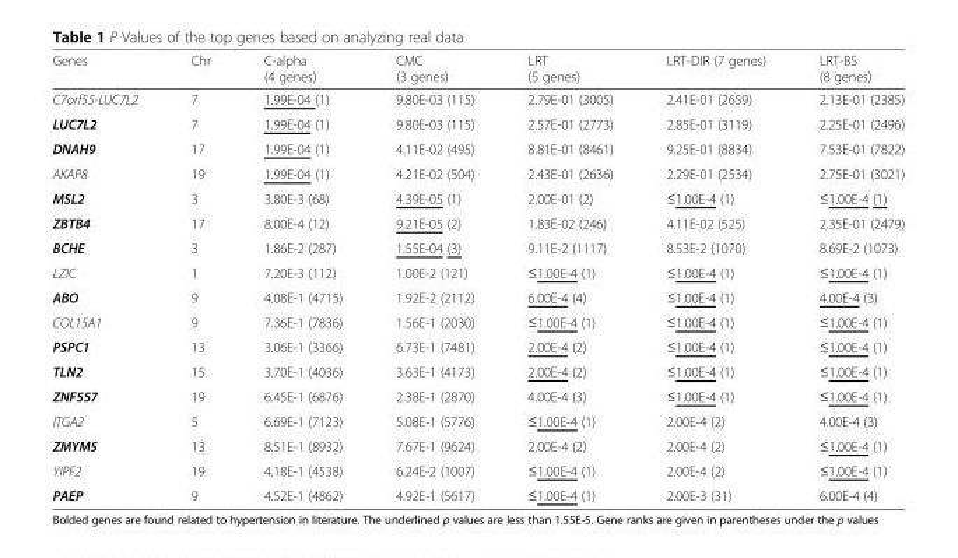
<table><thead><tr><td>Genes</td><td>Chr</td><td>C-alpha (4 genes)</td><td>CMC (3 genes)</td><td>LRT (5 genes)</td><td>LRT-DIR (7 genes)</td><td>LRT-BS (8 genes)</td></tr></thead><tbody><tr><td>C7orf55-LUC7L2</td><td>7</td><td>1.99E-04 (1)</td><td>9.80E-03 (115)</td><td>2.79E-01 (3005)</td><td>2.41E-01 (2659)</td><td>2.13E-01 (2385)</td></tr><tr><td>LUC7L2</td><td>7</td><td>1.99E-04 (1)</td><td>9.80E-03 (115)</td><td>2.57E-01 (2773)</td><td>2.85E-01 (3119)</td><td>2.25E-01 (2496)</td></tr><tr><td>DNAH9</td><td>17</td><td>1.99E-04 (1)</td><td>4.11E-02 (495)</td><td>8.81E-01 (8461)</td><td>9.25E-01 (8834)</td><td>7.53E-01 (7822)</td></tr><tr><td>AKAP8</td><td>19</td><td>1.99E-04 (1)</td><td>4.21E-02 (504)</td><td>2.43E-01 (2636)</td><td>2.29E-01 (2534)</td><td>2.75E-01 (3021)</td></tr><tr><td>MSL2</td><td>3</td><td>3.80E-3 (68)</td><td>4.39E-05 (1)</td><td>2.00E-01 (2)</td><td>≤1.00E-4 (1)</td><td>≤1.00E-4 (1)</td></tr><tr><td>ZBTB4</td><td>17</td><td>8.00E-4 (12)</td><td>9.21E-05 (2)</td><td>1.83E-02 (246)</td><td>4.11E-02 (525)</td><td>2.35E-01 (2479)</td></tr><tr><td>BCHE</td><td>3</td><td>1.86E-2 (287)</td><td>1.55E-04 (3)</td><td>9.11E-2 (1117)</td><td>8.53E-2 (1070)</td><td>8.69E-2 (1073)</td></tr><tr><td>LZIC</td><td>1</td><td>7.20E-3 (112)</td><td>1.00E-2 (121)</td><td>≤1.00E-4 (1)</td><td>≤1.00E-4 (1)</td><td>≤1.00E-4 (1)</td></tr><tr><td>ABO</td><td>9</td><td>4.08E-1 (4715)</td><td>1.92E-2 (2112)</td><td>6.00E-4 (4)</td><td>≤1.00E-4 (1)</td><td>4.00E-4 (3)</td></tr><tr><td>COL15A1</td><td>9</td><td>7.36E-1 (7836)</td><td>1.56E-1 (2030)</td><td>≤1.00E-4 (1)</td><td>≤1.00E-4 (1)</td><td>≤1.00E-4 (1)</td></tr><tr><td>PSPC1</td><td>13</td><td>3.06E-1 (3366)</td><td>6.73E-1 (7481)</td><td>2.00E-4 (2)</td><td>≤1.00E-4 (1)</td><td>≤1.00E-4 (1)</td></tr><tr><td>TLN2</td><td>15</td><td>3.70E-1 (4036)</td><td>3.63E-1 (4173)</td><td>2.00E-4 (2)</td><td>≤1.00E-4 (1)</td><td>≤1.00E-4 (1)</td></tr><tr><td>ZNF557</td><td>19</td><td>6.45E-1 (6876)</td><td>2.38E-1 (2870)</td><td>4.00E-4 (3)</td><td>≤1.00E-4 (1)</td><td>≤1.00E-4 (1)</td></tr><tr><td>ITGA2</td><td>5</td><td>6.69E-1 (7123)</td><td>5.08E-1 (5776)</td><td>≤1.00E-4 (1)</td><td>2.00E-4 (2)</td><td>4.00E-4 (3)</td></tr><tr><td>ZMYM5</td><td>13</td><td>8.51E-1 (8932)</td><td>7.67E-1 (9624)</td><td>2.00E-4 (2)</td><td>2.00E-4 (2)</td><td>≤1.00E-4 (1)</td></tr><tr><td>YIPF2</td><td>19</td><td>4.18E-1 (4538)</td><td>6.24E-2 (1007)</td><td>≤1.00E-4 (1)</td><td>2.00E-4 (2)</td><td>≤1.00E-4 (1)</td></tr><tr><td>PAEP</td><td>9</td><td>4.52E-1 (4862)</td><td>4.92E-1 (5617)</td><td>≤1.00E-4 (1)</td><td>2.00E-3 (31)</td><td>6.00E-4 (4)</td></tr></tbody></table>